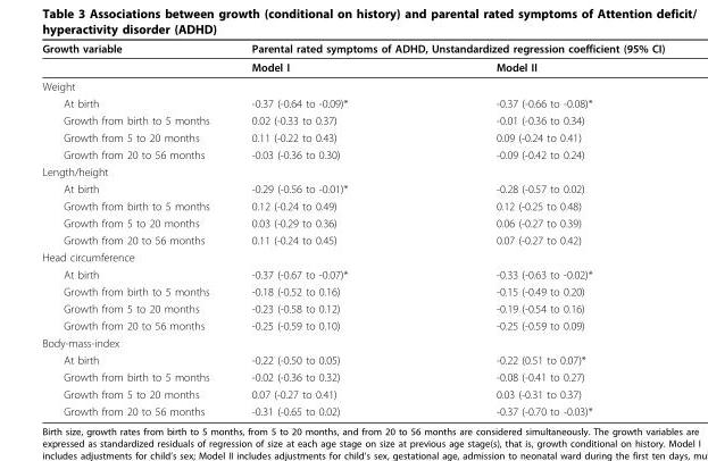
<table><thead><tr><td rowspan="2">Growth variable</td><td colspan="2">Parental rated symptoms of ADHD, Unstandardized regression coefficient (95% CI)</td></tr><tr><td>Model I</td><td>Model II</td></tr></thead><tbody><tr><td colspan="3">Weight</td></tr><tr><td>At birth</td><td>-0.37 (-0.64 to -0.09)*</td><td>-0.37 (-0.66 to -0.08)*</td></tr><tr><td>Growth from birth to 5 months</td><td>0.02 (-0.33 to 0.37)</td><td>-0.01 (-0.36 to 0.34)</td></tr><tr><td>Growth from 5 to 20 months</td><td>0.11 (-0.22 to 0.43)</td><td>0.09 (-0.24 to 0.41)</td></tr><tr><td>Growth from 20 to 56 months</td><td>-0.03 (-0.36 to 0.30)</td><td>-0.09 (-0.42 to 0.24)</td></tr><tr><td colspan="3">Length/height</td></tr><tr><td>At birth</td><td>-0.29 (-0.56 to -0.01)*</td><td>-0.28 (-0.57 to 0.02)</td></tr><tr><td>Growth from birth to 5 months</td><td>0.12 (-0.24 to 0.49)</td><td>0.12 (-0.25 to 0.48)</td></tr><tr><td>Growth from 5 to 20 months</td><td>0.03 (-0.29 to 0.36)</td><td>0.06 (-0.27 to 0.39)</td></tr><tr><td>Growth from 20 to 56 months</td><td>0.11 (-0.24 to 0.45)</td><td>0.07 (-0.27 to 0.42)</td></tr><tr><td colspan="3">Head circumference</td></tr><tr><td>At birth</td><td>-0.37 (-0.67 to -0.07)*</td><td>-0.33 (-0.63 to -0.02)*</td></tr><tr><td>Growth from birth to 5 months</td><td>-0.18 (-0.52 to 0.16)</td><td>-0.15 (-0.49 to 0.20)</td></tr><tr><td>Growth from 5 to 20 months</td><td>-0.23 (-0.58 to 0.12)</td><td>-0.19 (-0.54 to 0.16)</td></tr><tr><td>Growth from 20 to 56 months</td><td>-0.25 (-0.59 to 0.10)</td><td>-0.25 (-0.59 to 0.09)</td></tr><tr><td colspan="3">Body-mass-index</td></tr><tr><td>At birth</td><td>-0.22 (-0.50 to 0.05)</td><td>-0.22 (0.51 to 0.07)*</td></tr><tr><td>Growth from birth to 5 months</td><td>-0.02 (-0.36 to 0.32)</td><td>-0.08 (-0.41 to 0.27)</td></tr><tr><td>Growth from 5 to 20 months</td><td>0.07 (-0.27 to 0.41)</td><td>0.03 (-0.31 to 0.37)</td></tr><tr><td>Growth from 20 to 56 months</td><td>-0.31 (-0.65 to 0.02)</td><td>-0.37 (-0.70 to -0.03)*</td></tr></tbody></table>